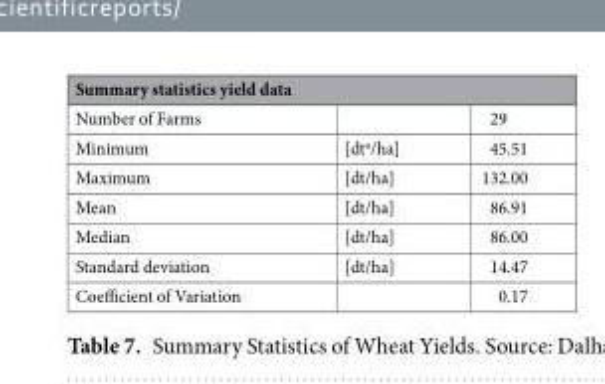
<table><thead><tr><td colspan="3">Summary statistics yield data</td></tr><tr><td>Number of Farms</td><td></td><td>29</td></tr></thead><tbody><tr><td>Minimum</td><td>[dt<sup>a</sup>/ha]</td><td>45.51</td></tr><tr><td>Maximum</td><td>[dt/ha]</td><td>132.00</td></tr><tr><td>Mean</td><td>[dt/ha]</td><td>86.91</td></tr><tr><td>Median</td><td>[dt/ha]</td><td>86.00</td></tr><tr><td>Standard deviation</td><td>[dt/ha]</td><td>14.47</td></tr><tr><td>Coefficient of Variation</td><td></td><td>0.17</td></tr></tbody></table>